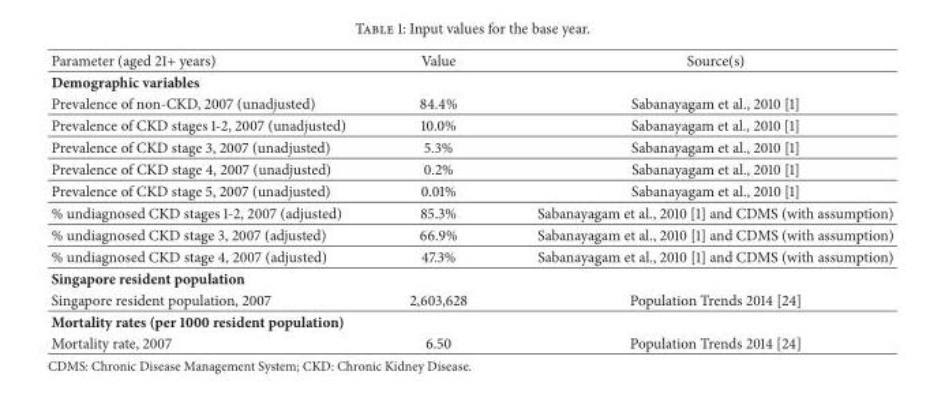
<table><thead><tr><td>Parameter (aged 21+ years)</td><td>Value</td><td>Source(s)</td></tr></thead><tbody><tr><td colspan="3">Demographic variables</td></tr><tr><td>Prevalence of non-CKD, 2007 (unadjusted)</td><td>84.4%</td><td>Sabanayagam et al., 2010 [1]</td></tr><tr><td>Prevalence of CKD stages 1-2, 2007 (unadjusted)</td><td>10.0%</td><td>Sabanayagam et al., 2010 [1]</td></tr><tr><td>Prevalence of CKD stage 3, 2007 (unadjusted)</td><td>5.3%</td><td>Sabanayagam et al., 2010 [1]</td></tr><tr><td>Prevalence of CKD stage 4, 2007 (unadjusted)</td><td>0.2%</td><td>Sabanayagam et al., 2010 [1]</td></tr><tr><td>Prevalence of CKD stage 5, 2007 (unadjusted)</td><td>0.01%</td><td>Sabanayagam et al., 2010 [1]</td></tr><tr><td>% undiagnosed CKD stages 1-2, 2007 (adjusted)</td><td>85.3%</td><td>Sabanayagam et al., 2010 [1] and CDMS (with assumption)</td></tr><tr><td>% undiagnosed CKD stage 3, 2007 (adjusted)</td><td>66.9%</td><td>Sabanayagam et al., 2010 [1] and CDMS (with assumption)</td></tr><tr><td>% undiagnosed CKD stage 4, 2007 (adjusted)</td><td>47.3%</td><td>Sabanayagam et al., 2010 [1] and CDMS (with assumption)</td></tr><tr><td colspan="3">Singapore resident population</td></tr><tr><td>Singapore resident population, 2007</td><td>2,603,628</td><td>Population Trends 2014 [24]</td></tr><tr><td colspan="3">Mortality rates (per 1000 resident population)</td></tr><tr><td>Mortality rate, 2007</td><td>6.50</td><td>Population Trends 2014 [24]</td></tr></tbody></table>